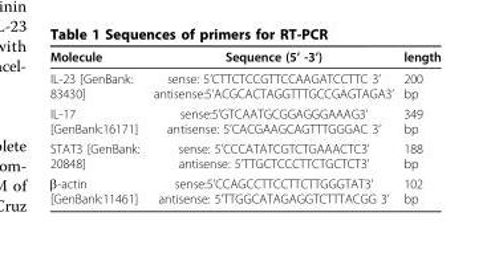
<table><thead><tr><td>Molecule</td><td>Sequence (5’ -3’)</td><td>length</td></tr></thead><tbody><tr><td>IL-23 [GenBank: 83430]</td><td>sense: 5’CTTCTCCGTTCCAAGATCCTTC 3’ antisense:5’ACGCACTAGGTTTGCCGAGTAGA3’</td><td>200 bp</td></tr><tr><td>IL-17 [GenBank:16171]</td><td>sense:5’GTCAATGCGGAGGGAAAG3’ antisense: 5’CACGAAGCAGTTTGGGAC 3’</td><td>349 bp</td></tr><tr><td>STAT3 [GenBank: 20848]</td><td>sense: 5’CCCATATCGTCTGAAACTC3’ antisense: 5’TTGCTCCCTTCTGCTCT3’</td><td>188 bp</td></tr><tr><td>β-actin [GenBank:11461]</td><td>sense:5’CCAGCCTTCCTTCTTGGGTAT3’ antisense: 5’TTGGCATAGAGGTCTTTACGG 3’</td><td>102 bp</td></tr></tbody></table>